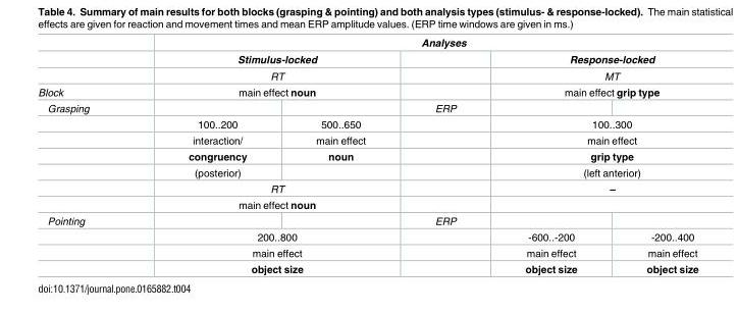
<table><thead><tr><td rowspan="5">Block Grasping</td><td colspan="5">Analyses</td></tr><tr><td rowspan="3" colspan="2">Stimulus-locked RT main effect noun</td><td rowspan="4">ERP</td><td rowspan="3" colspan="2">Response-locked MT main effect grip type</td></tr><tr></tr><tr></tr><tr><td></td><td></td><td></td><td></td></tr></thead><tbody><tr><td></td><td>100..200</td><td>500..650</td><td></td><td colspan="2">100..300</td></tr><tr><td></td><td>interaction/</td><td>main effect</td><td></td><td colspan="2">main effect</td></tr><tr><td></td><td>congruency</td><td>noun</td><td></td><td colspan="2">grip type</td></tr><tr><td></td><td>(posterior)</td><td></td><td></td><td colspan="2">(left anterior)</td></tr><tr><td></td><td colspan="2">RT</td><td></td><td colspan="2">–</td></tr><tr><td></td><td colspan="2">main effect noun</td><td></td><td colspan="2"></td></tr><tr><td rowspan="4">Pointing</td><td></td><td></td><td>ERP</td><td></td><td></td></tr><tr><td colspan="2">200..800</td><td></td><td>-600..-200</td><td>-200..400</td></tr><tr><td colspan="2">main effect</td><td></td><td>main effect</td><td>main effect</td></tr><tr><td colspan="2">object size</td><td></td><td>object size</td><td>object size</td></tr></tbody></table>